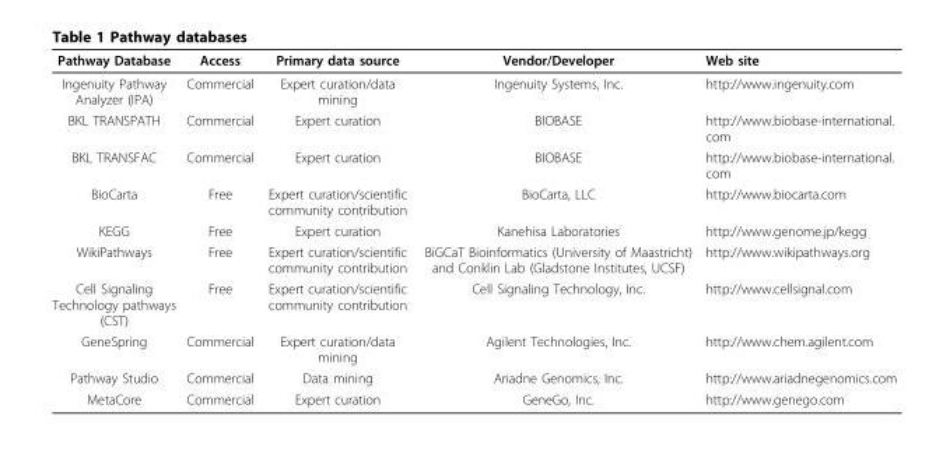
<table><thead><tr><td>Pathway Database</td><td>Access</td><td>Primary data source</td><td>Vendor/Developer</td><td>Web site</td></tr></thead><tbody><tr><td>Ingenuity Pathway Analyzer (IPA)</td><td>Commercial</td><td>Expert curation/data mining</td><td>Ingenuity Systems, Inc.</td><td>http://www.ingenuity.com</td></tr><tr><td>BKL TRANSPATH</td><td>Commercial</td><td>Expert curation</td><td>BIOBASE</td><td>http://www.biobase-international. com</td></tr><tr><td>BKL TRANSFAC</td><td>Commercial</td><td>Expert curation</td><td>BIOBASE</td><td>http://www.biobase-international. com</td></tr><tr><td>BioCarta</td><td>Free</td><td>Expert curation/scientific community contribution</td><td>BioCarta, LLC</td><td>http://www.biocarta.com</td></tr><tr><td>KEGG</td><td>Free</td><td>Expert curation</td><td>Kanehisa Laboratories</td><td>http://www.genome.jp/kegg</td></tr><tr><td>WikiPathways</td><td>Free</td><td>Expert curation/scientific community contribution</td><td>BiGCaT Bioinformatics (University of Maastricht) and Conklin Lab (Gladstone Institutes, UCSF)</td><td>http://www.wikipathways.org</td></tr><tr><td>Cell Signaling Technology pathways (CST)</td><td>Free</td><td>Expert curation/scientific community contribution</td><td>Cell Signaling Technology, Inc.</td><td>http://www.cellsignal.com</td></tr><tr><td>GeneSpring</td><td>Commercial</td><td>Expert curation/data mining</td><td>Agilent Technologies, Inc.</td><td>http://www.chem.agilent.com</td></tr><tr><td>Pathway Studio</td><td>Commercial</td><td>Data mining</td><td>Ariadne Genomics, Inc.</td><td>http://www.ariadnegenomics.com</td></tr><tr><td>MetaCore</td><td>Commercial</td><td>Expert curation</td><td>GeneGo, Inc.</td><td>http://www.genego.com</td></tr></tbody></table>